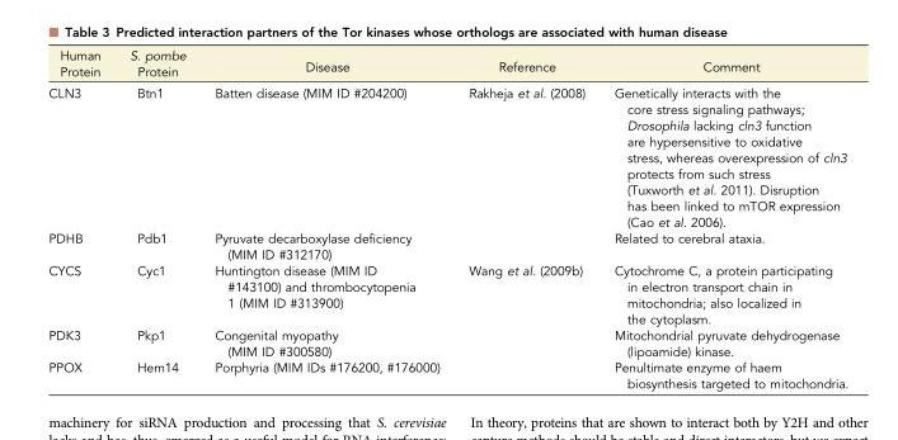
<table><thead><tr><td>Human Protein</td><td>S. pombe Protein</td><td>Disease</td><td>Reference</td><td>Comment</td></tr></thead><tbody><tr><td>CLN3</td><td>Btn1</td><td>Batten disease (MIM ID #204200)</td><td>Rakheja et al. (2008)</td><td>Genetically interacts with the core stress signaling pathways; Drosophila lacking cln3 function are hypersensitive to oxidative stress, whereas overexpression of cln3 protects from such stress (Tuxworth et al. 2011). Disruption has been linked to mTOR expression (Cao et al. 2006).</td></tr><tr><td>PDHB</td><td>Pdb1</td><td>Pyruvate decarboxylase deficiency (MIM ID #312170)</td><td></td><td>Related to cerebral ataxia.</td></tr><tr><td>CYCS</td><td>Cyc1</td><td>Huntington disease (MIM ID #143100) and thrombocytopenia 1 (MIM ID #313900)</td><td>Wang et al. (2009b)</td><td>Cytochrome C, a protein participating in electron transport chain in mitochondria; also localized in the cytoplasm.</td></tr><tr><td>PDK3</td><td>Pkp1</td><td>Congenital myopathy (MIM ID #300580)</td><td></td><td>Mitochondrial pyruvate dehydrogenase (lipoamide) kinase.</td></tr><tr><td>PPOX</td><td>Hem14</td><td>Porphyria (MIM IDs #176200, #176000)</td><td></td><td>Penultimate enzyme of haem biosynthesis targeted to mitochondria.</td></tr></tbody></table>